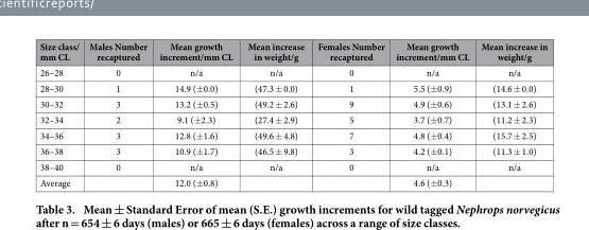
<table><thead><tr><td>Size class/ mm CL</td><td>Males Number recaptured</td><td>Mean growth increment/mm CL</td><td>Mean increase in weight/g</td><td>Females Number recaptured</td><td>Mean growth increment/mm CL</td><td>Mean increase in weight/g</td></tr></thead><tbody><tr><td>26–28</td><td>0</td><td>n/a</td><td>n/a</td><td>0</td><td>n/a</td><td>n/a</td></tr><tr><td>28–30</td><td>1</td><td>14.9 (± 0.0)</td><td>(47.3 ± 0.0)</td><td>1</td><td>5.5 (± 0.9)</td><td>(14.6 ± 0.0)</td></tr><tr><td>30–32</td><td>3</td><td>13.2 (± 0.5)</td><td>(49.2 ± 2.6)</td><td>9</td><td>4.9 (± 0.6)</td><td>(13.1 ± 2.6)</td></tr><tr><td>32–34</td><td>2</td><td>9.1 (± 2.3)</td><td>(27.4 ± 2.9)</td><td>5</td><td>3.7 (± 0.7)</td><td>(11.2 ± 2.3)</td></tr><tr><td>34–36</td><td>3</td><td>12.8 (± 1.6)</td><td>(49.6 ± 4.8)</td><td>7</td><td>4.8 (± 0.4)</td><td>(15.7 ± 2.5)</td></tr><tr><td>36–38</td><td>3</td><td>10.9 (± 1.7)</td><td>(46.5 ± 9.8)</td><td>3</td><td>4.2 (± 0.1)</td><td>(11.3 ± 1.0)</td></tr><tr><td>38–40</td><td>0</td><td>n/a</td><td>n/a</td><td>0</td><td>n/a</td><td>n/a</td></tr><tr><td>Average</td><td></td><td>12.0 (± 0.8)</td><td></td><td></td><td>4.6 (± 0.3)</td><td></td></tr></tbody></table>